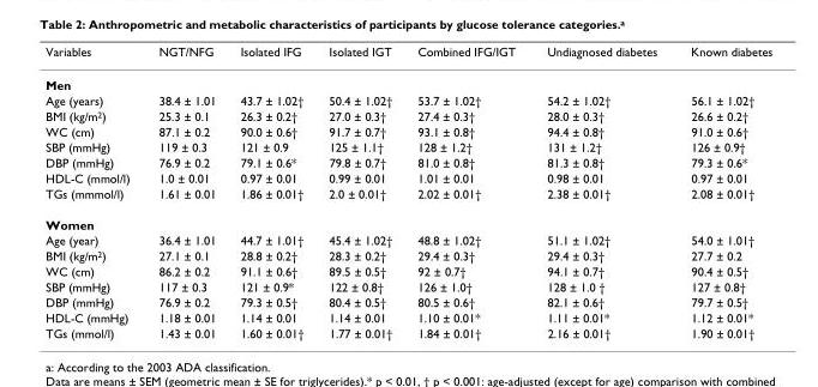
<table><thead><tr><td>Variables</td><td>NGT/NFG</td><td>Isolated IFG</td><td>Isolated IGT</td><td>Combined IFG/IGT</td><td>Undiagnosed diabetes</td><td>Known diabetes</td></tr></thead><tbody><tr><td colspan="7">Men</td></tr><tr><td>Age (years)</td><td>38.4 ± 1.01</td><td>43.7 ± 1.02†</td><td>50.4 ± 1.02†</td><td>53.7 ± 1.02†</td><td>54.2 ± 1.02†</td><td>56.1 ± 1.02†</td></tr><tr><td>BMI (kg/m<sup>2</sup>)</td><td>25.3 ± 0.1</td><td>26.3 ± 0.2†</td><td>27.0 ± 0.3†</td><td>27.4 ± 0.3†</td><td>28.0 ± 0.3†</td><td>26.6 ± 0.2†</td></tr><tr><td>WC (cm)</td><td>87.1 ± 0.2</td><td>90.0 ± 0.6†</td><td>91.7 ± 0.7†</td><td>93.1 ± 0.8†</td><td>94.4 ± 0.8†</td><td>91.0 ± 0.6†</td></tr><tr><td>SBP (mmHg)</td><td>119 ± 0.3</td><td>121 ± 0.9</td><td>125 ± 1.1†</td><td>128 ± 1.2†</td><td>131 ± 1.2†</td><td>126 ± 0.9†</td></tr><tr><td>DBP (mmHg)</td><td>76.9 ± 0.2</td><td>79.1 ± 0.6*</td><td>79.8 ± 0.7†</td><td>81.0 ± 0.8†</td><td>81.3 ± 0.8†</td><td>79.3 ± 0.6*</td></tr><tr><td>HDL-C (mmol/l)</td><td>1.0 ± 0.01</td><td>0.97 ± 0.01</td><td>0.99 ± 0.01</td><td>1.01 ± 0.01</td><td>0.98 ± 0.01</td><td>0.97 ± 0.01</td></tr><tr><td>TGs (mmmol/l)</td><td>1.61 ± 0.01</td><td>1.86 ± 0.01†</td><td>2.0 ± 0.01†</td><td>2.02 ± 0.01†</td><td>2.38 ± 0.01†</td><td>2.08 ± 0.01†</td></tr><tr><td colspan="7">Women</td></tr><tr><td>Age (year)</td><td>36.4 ± 1.01</td><td>44.7 ± 1.01†</td><td>45.4 ± 1.02†</td><td>48.8 ± 1.02†</td><td>51.1 ± 1.02†</td><td>54.0 ± 1.01†</td></tr><tr><td>BMI (kg/m<sup>2</sup>)</td><td>27.1 ± 0.1</td><td>28.8 ± 0.2†</td><td>28.3 ± 0.2†</td><td>29.4 ± 0.3†</td><td>29.4 ± 0.3†</td><td>27.7 ± 0.2</td></tr><tr><td>WC (cm)</td><td>86.2 ± 0.2</td><td>91.1 ± 0.6†</td><td>89.5 ± 0.5†</td><td>92 ± 0.7†</td><td>94.1 ± 0.7†</td><td>90.4 ± 0.5†</td></tr><tr><td>SBP (mmHg)</td><td>117 ± 0.3</td><td>121 ± 0.9*</td><td>122 ± 0.8†</td><td>126 ± 1.0†</td><td>128 ± 1.0 †</td><td>127 ± 0.8†</td></tr><tr><td>DBP (mmHg)</td><td>76.9 ± 0.2</td><td>79.3 ± 0.5†</td><td>80.4 ± 0.5†</td><td>80.5 ± 0.6†</td><td>82.1 ± 0.6†</td><td>79.7 ± 0.5†</td></tr><tr><td>HDL-C (mmHg)</td><td>1.18 ± 0.01</td><td>1.14 ± 0.01</td><td>1.14 ± 0.01</td><td>1.10 ± 0.01*</td><td>1.11 ± 0.01*</td><td>1.12 ± 0.01*</td></tr><tr><td>TGs (mmol/l)</td><td>1.43 ± 0.01</td><td>1.60 ± 0.01†</td><td>1.77 ± 0.01†</td><td>1.84 ± 0.01†</td><td>2.16 ± 0.01†</td><td>1.90 ± 0.01†</td></tr></tbody></table>